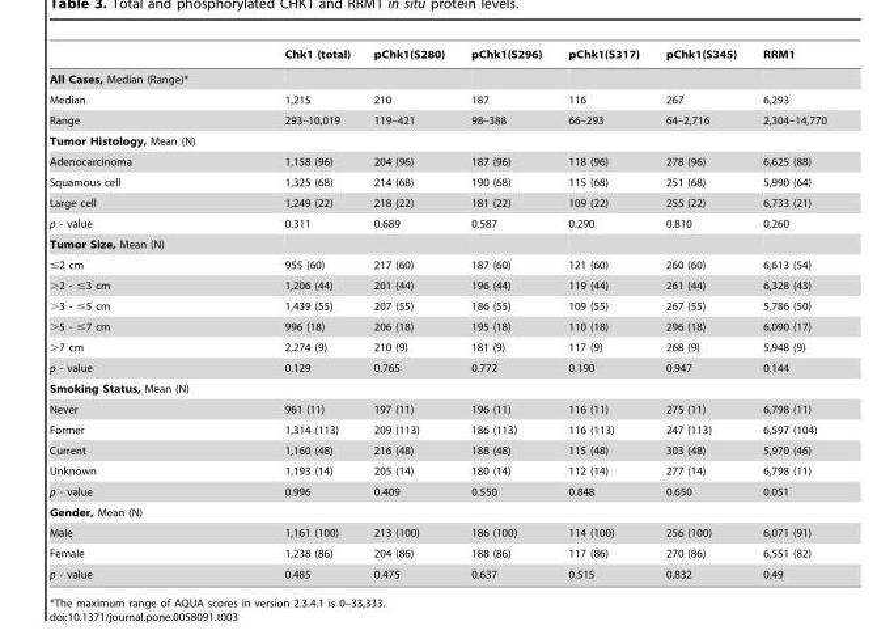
<table><thead><tr><td></td><td>Chk1 (total)</td><td>pChk1(S280)</td><td>pChk1(S296)</td><td>pChk1(S317)</td><td>pChk1(S345)</td><td>RRM1</td></tr></thead><tbody><tr><td colspan="7">All Cases, Median (Range)*</td></tr><tr><td>Median</td><td>1,215</td><td>210</td><td>187</td><td>116</td><td>267</td><td>6,293</td></tr><tr><td>Range</td><td>293–10,019</td><td>119–421</td><td>98–388</td><td>66–293</td><td>64–2,716</td><td>2,304–14,770</td></tr><tr><td colspan="7">Tumor Histology, Mean (N)</td></tr><tr><td>Adenocarcinoma</td><td>1,158 (96)</td><td>204 (96)</td><td>187 (96)</td><td>118 (96)</td><td>278 (96)</td><td>6,625 (88)</td></tr><tr><td>Squamous cell</td><td>1,325 (68)</td><td>214 (68)</td><td>190 (68)</td><td>115 (68)</td><td>251 (68)</td><td>5,990 (64)</td></tr><tr><td>Large cell</td><td>1,249 (22)</td><td>218 (22)</td><td>181 (22)</td><td>109 (22)</td><td>255 (22)</td><td>6,733 (21)</td></tr><tr><td>p - value</td><td>0.311</td><td>0.689</td><td>0.587</td><td>0.290</td><td>0.810</td><td>0.260</td></tr><tr><td colspan="7">Tumor Size, Mean (N)</td></tr><tr><td>≤2 cm</td><td>955 (60)</td><td>217 (60)</td><td>187 (60)</td><td>121 (60)</td><td>260 (60)</td><td>6,613 (54)</td></tr><tr><td>&gt;2 - ≤3 cm</td><td>1,206 (44)</td><td>201 (44)</td><td>196 (44)</td><td>119 (44)</td><td>261 (44)</td><td>6,328 (43)</td></tr><tr><td>&gt;3 - ≤5 cm</td><td>1,439 (55)</td><td>207 (55)</td><td>186 (55)</td><td>109 (55)</td><td>267 (55)</td><td>5,786 (50)</td></tr><tr><td>&gt;5 - ≤7 cm</td><td>996 (18)</td><td>206 (18)</td><td>195 (18)</td><td>110 (18)</td><td>296 (18)</td><td>6,090 (17)</td></tr><tr><td>&gt;7 cm</td><td>2,274 (9)</td><td>210 (9)</td><td>181 (9)</td><td>117 (9)</td><td>268 (9)</td><td>5,948 (9)</td></tr><tr><td>p - value</td><td>0.129</td><td>0.765</td><td>0.772</td><td>0.190</td><td>0.947</td><td>0.144</td></tr><tr><td colspan="7">Smoking Status, Mean (N)</td></tr><tr><td>Never</td><td>961 (11)</td><td>197 (11)</td><td>196 (11)</td><td>116 (11)</td><td>275 (11)</td><td>6,798 (11)</td></tr><tr><td>Former</td><td>1,314 (113)</td><td>209 (113)</td><td>186 (113)</td><td>116 (113)</td><td>247 (113)</td><td>6,597 (104)</td></tr><tr><td>Current</td><td>1,160 (48)</td><td>216 (48)</td><td>188 (48)</td><td>115 (48)</td><td>303 (48)</td><td>5,970 (46)</td></tr><tr><td>Unknown</td><td>1,193 (14)</td><td>205 (14)</td><td>180 (14)</td><td>112 (14)</td><td>277 (14)</td><td>6,798 (11)</td></tr><tr><td>p - value</td><td>0.996</td><td>0.409</td><td>0.550</td><td>0.848</td><td>0.650</td><td>0.051</td></tr><tr><td colspan="7">Gender, Mean (N)</td></tr><tr><td>Male</td><td>1,161 (100)</td><td>213 (100)</td><td>186 (100)</td><td>114 (100)</td><td>256 (100)</td><td>6,071 (91)</td></tr><tr><td>Female</td><td>1,238 (86)</td><td>204 (86)</td><td>188 (86)</td><td>117 (86)</td><td>270 (86)</td><td>6,551 (82)</td></tr><tr><td>p - value</td><td>0.485</td><td>0.475</td><td>0.637</td><td>0.515</td><td>0.832</td><td>0.49</td></tr></tbody></table>